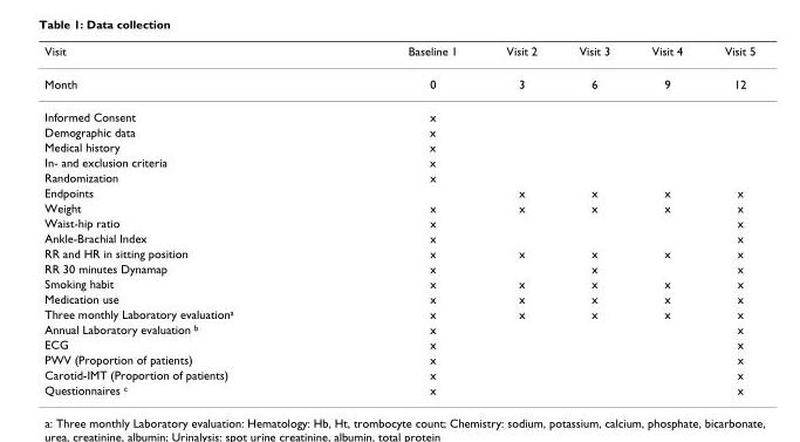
<table><thead><tr><td>Visit</td><td>Baseline 1</td><td>Visit 2</td><td>Visit 3</td><td>Visit 4</td><td>Visit 5</td></tr></thead><tbody><tr><td>Month</td><td>0</td><td>3</td><td>6</td><td>9</td><td>12</td></tr><tr><td>Informed Consent</td><td>x</td><td></td><td></td><td></td><td></td></tr><tr><td>Demographic data</td><td>x</td><td></td><td></td><td></td><td></td></tr><tr><td>Medical history</td><td>x</td><td></td><td></td><td></td><td></td></tr><tr><td>In- and exclusion criteria</td><td>x</td><td></td><td></td><td></td><td></td></tr><tr><td>Randomization</td><td>x</td><td></td><td></td><td></td><td></td></tr><tr><td>Endpoints</td><td></td><td>x</td><td>x</td><td>x</td><td>x</td></tr><tr><td>Weight</td><td>x</td><td>x</td><td>x</td><td>x</td><td>x</td></tr><tr><td>Waist-hip ratio</td><td>x</td><td></td><td></td><td></td><td>x</td></tr><tr><td>Ankle-Brachial Index</td><td>x</td><td></td><td></td><td></td><td>x</td></tr><tr><td>RR and HR in sitting position</td><td>x</td><td>x</td><td>x</td><td>x</td><td>x</td></tr><tr><td>RR 30 minutes Dynamap</td><td>x</td><td></td><td>x</td><td></td><td>x</td></tr><tr><td>Smoking habit</td><td>x</td><td>x</td><td>x</td><td>x</td><td>x</td></tr><tr><td>Medication use</td><td>x</td><td>x</td><td>x</td><td>x</td><td>x</td></tr><tr><td>Three monthly Laboratory evaluation<sup>a</sup></td><td>x</td><td>x</td><td>x</td><td>x</td><td>x</td></tr><tr><td>Annual Laboratory evaluation <sup>b</sup></td><td>x</td><td></td><td></td><td></td><td>x</td></tr><tr><td>ECG</td><td>x</td><td></td><td></td><td></td><td>x</td></tr><tr><td>PWV (Proportion of patients)</td><td>x</td><td></td><td></td><td></td><td>x</td></tr><tr><td>Carotid-IMT (Proportion of patients)</td><td>x</td><td></td><td></td><td></td><td>x</td></tr><tr><td>Questionnaires <sup>c</sup></td><td>x</td><td></td><td></td><td></td><td>x</td></tr></tbody></table>